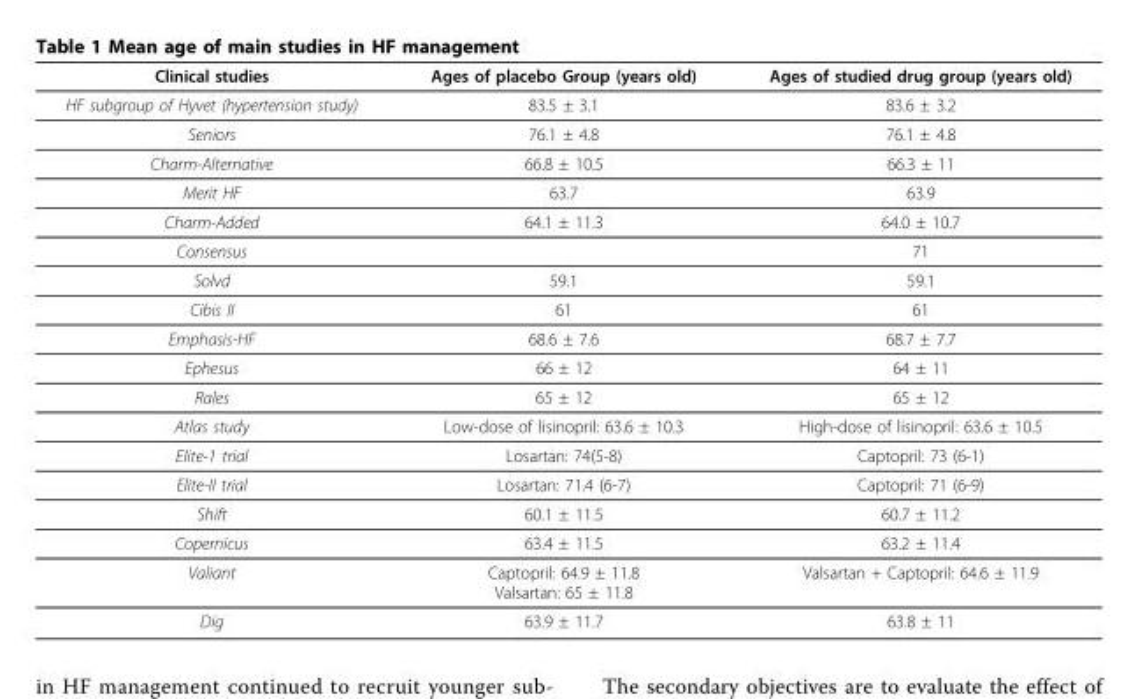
<table><thead><tr><td>Clinical studies</td><td>Ages of placebo Group (years old)</td><td>Ages of studied drug group (years old)</td></tr></thead><tbody><tr><td>HF subgroup of Hyvet (hypertension study)</td><td>83.5 ± 3.1</td><td>83.6 ± 3.2</td></tr><tr><td>Seniors</td><td>76.1 ± 4.8</td><td>76.1 ± 4.8</td></tr><tr><td>Charm-Alternative</td><td>66.8 ± 10.5</td><td>66.3 ± 11</td></tr><tr><td>Merit HF</td><td>63.7</td><td>63.9</td></tr><tr><td>Charm-Added</td><td>64.1 ± 11.3</td><td>64.0 ± 10.7</td></tr><tr><td>Consensus</td><td></td><td>71</td></tr><tr><td>Solvd</td><td>59.1</td><td>59.1</td></tr><tr><td>Cibis II</td><td>61</td><td>61</td></tr><tr><td>Emphasis-HF</td><td>68.6 ± 7.6</td><td>68.7 ± 7.7</td></tr><tr><td>Ephesus</td><td>66 ± 12</td><td>64 ± 11</td></tr><tr><td>Rales</td><td>65 ± 12</td><td>65 ± 12</td></tr><tr><td>Atlas study</td><td>Low-dose of lisinopril: 63.6 ± 10.3</td><td>High-dose of lisinopril: 63.6 ± 10.5</td></tr><tr><td>Elite-1 trial</td><td>Losartan: 74(5-8)</td><td>Captopril: 73 (6-1)</td></tr><tr><td>Elite-II trial</td><td>Losartan: 71.4 (6-7)</td><td>Captopril: 71 (6-9)</td></tr><tr><td>Shift</td><td>60.1 ± 11.5</td><td>60.7 ± 11.2</td></tr><tr><td>Copernicus</td><td>63.4 ± 11.5</td><td>63.2 ± 11.4</td></tr><tr><td>Valiant</td><td>Captopril: 64.9 ± 11.8 Valsartan: 65 ± 11.8</td><td>Valsartan + Captopril: 64.6 ± 11.9</td></tr><tr><td>Dig</td><td>63.9 ± 11.7</td><td>63.8 ± 11</td></tr></tbody></table>